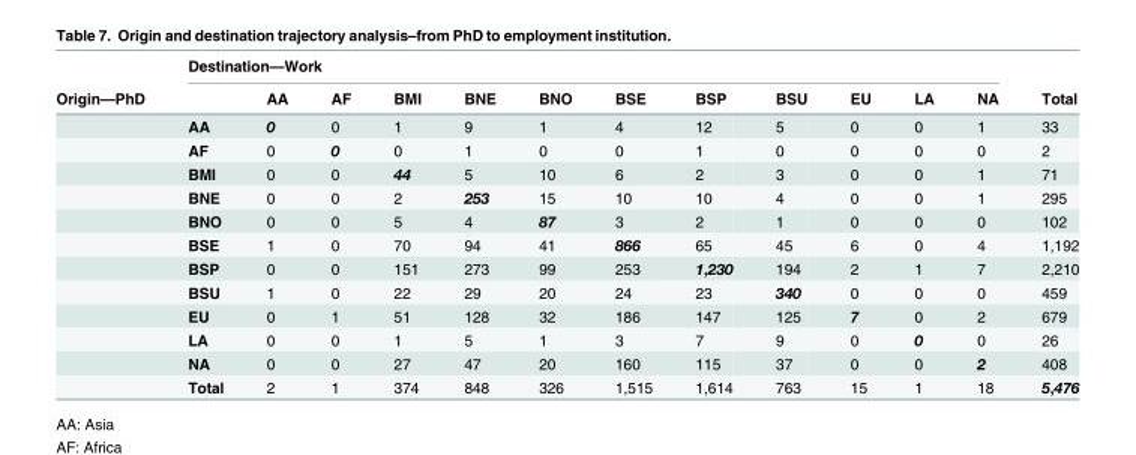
<table><thead><tr><td rowspan="2">Origin—PhD</td><td colspan="12">Destination—Work</td><td rowspan="2">Total</td></tr><tr><td></td><td>AA</td><td>AF</td><td>BMI</td><td>BNE</td><td>BNO</td><td>BSE</td><td>BSP</td><td>BSU</td><td>EU</td><td>LA</td><td>NA</td></tr></thead><tbody><tr><td></td><td>AA</td><td>0</td><td>0</td><td>1</td><td>9</td><td>1</td><td>4</td><td>12</td><td>5</td><td>0</td><td>0</td><td>1</td><td>33</td></tr><tr><td></td><td>AF</td><td>0</td><td>0</td><td>0</td><td>1</td><td>0</td><td>0</td><td>1</td><td>0</td><td>0</td><td>0</td><td>0</td><td>2</td></tr><tr><td></td><td>BMI</td><td>0</td><td>0</td><td>44</td><td>5</td><td>10</td><td>6</td><td>2</td><td>3</td><td>0</td><td>0</td><td>1</td><td>71</td></tr><tr><td></td><td>BNE</td><td>0</td><td>0</td><td>2</td><td>253</td><td>15</td><td>10</td><td>10</td><td>4</td><td>0</td><td>0</td><td>1</td><td>295</td></tr><tr><td></td><td>BNO</td><td>0</td><td>0</td><td>5</td><td>4</td><td>87</td><td>3</td><td>2</td><td>1</td><td>0</td><td>0</td><td>0</td><td>102</td></tr><tr><td></td><td>BSE</td><td>1</td><td>0</td><td>70</td><td>94</td><td>41</td><td>866</td><td>65</td><td>45</td><td>6</td><td>0</td><td>4</td><td>1,192</td></tr><tr><td></td><td>BSP</td><td>0</td><td>0</td><td>151</td><td>273</td><td>99</td><td>253</td><td>1,230</td><td>194</td><td>2</td><td>1</td><td>7</td><td>2,210</td></tr><tr><td></td><td>BSU</td><td>1</td><td>0</td><td>22</td><td>29</td><td>20</td><td>24</td><td>23</td><td>340</td><td>0</td><td>0</td><td>0</td><td>459</td></tr><tr><td></td><td>EU</td><td>0</td><td>1</td><td>51</td><td>128</td><td>32</td><td>186</td><td>147</td><td>125</td><td>7</td><td>0</td><td>2</td><td>679</td></tr><tr><td></td><td>LA</td><td>0</td><td>0</td><td>1</td><td>5</td><td>1</td><td>3</td><td>7</td><td>9</td><td>0</td><td>0</td><td>0</td><td>26</td></tr><tr><td></td><td>NA</td><td>0</td><td>0</td><td>27</td><td>47</td><td>20</td><td>160</td><td>115</td><td>37</td><td>0</td><td>0</td><td>2</td><td>408</td></tr><tr><td></td><td>Total</td><td>2</td><td>1</td><td>374</td><td>848</td><td>326</td><td>1,515</td><td>1,614</td><td>763</td><td>15</td><td>1</td><td>18</td><td>5,476</td></tr></tbody></table>